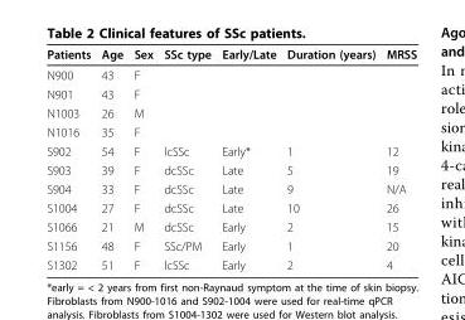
<table><thead><tr><td>Patients</td><td>Age</td><td>Sex</td><td>SSc type</td><td>Early/Late</td><td>Duration (years)</td><td>MRSS</td></tr></thead><tbody><tr><td>N900</td><td>43</td><td>F</td><td></td><td></td><td></td><td></td></tr><tr><td>N901</td><td>43</td><td>F</td><td></td><td></td><td></td><td></td></tr><tr><td>N1003</td><td>26</td><td>M</td><td></td><td></td><td></td><td></td></tr><tr><td>N1016</td><td>35</td><td>F</td><td></td><td></td><td></td><td></td></tr><tr><td>S902</td><td>54</td><td>F</td><td>lcSSc</td><td>Early*</td><td>1</td><td>12</td></tr><tr><td>S903</td><td>39</td><td>F</td><td>dcSSc</td><td>Late</td><td>5</td><td>19</td></tr><tr><td>S904</td><td>33</td><td>F</td><td>dcSSc</td><td>Late</td><td>9</td><td>N/A</td></tr><tr><td>S1004</td><td>27</td><td>F</td><td>dcSSc</td><td>Late</td><td>10</td><td>26</td></tr><tr><td>S1066</td><td>21</td><td>M</td><td>dcSSc</td><td>Early</td><td>2</td><td>15</td></tr><tr><td>S1156</td><td>48</td><td>F</td><td>SSc/PM</td><td>Early</td><td>1</td><td>20</td></tr><tr><td>S1302</td><td>51</td><td>F</td><td>lcSSc</td><td>Early</td><td>2</td><td>4</td></tr></tbody></table>